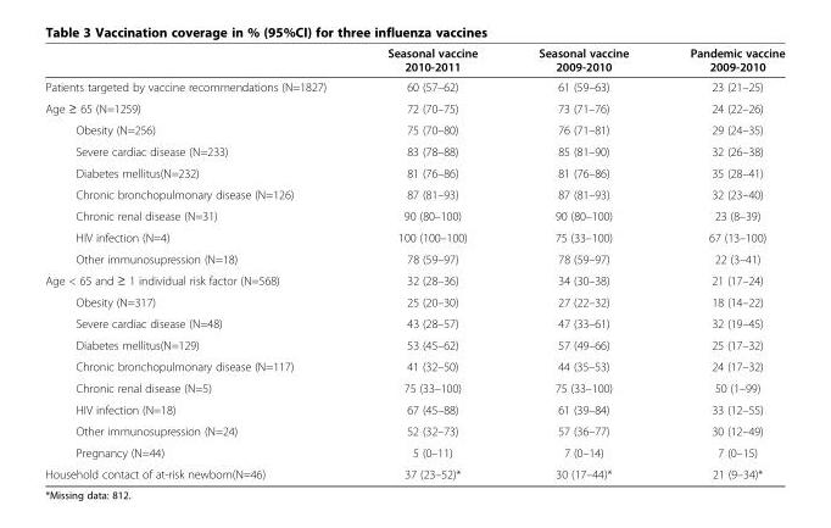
<table><thead><tr><td></td><td>Seasonal vaccine 2010-2011</td><td>Seasonal vaccine 2009-2010</td><td>Pandemic vaccine 2009-2010</td></tr></thead><tbody><tr><td>Patients targeted by vaccine recommendations (N=1827)</td><td>60 (57–62)</td><td>61 (59–63)</td><td>23 (21–25)</td></tr><tr><td>Age ≥ 65 (N=1259)</td><td>72 (70–75)</td><td>73 (71–76)</td><td>24 (22–26)</td></tr><tr><td>Obesity (N=256)</td><td>75 (70–80)</td><td>76 (71–81)</td><td>29 (24–35)</td></tr><tr><td>Severe cardiac disease (N=233)</td><td>83 (78–88)</td><td>85 (81–90)</td><td>32 (26–38)</td></tr><tr><td>Diabetes mellitus(N=232)</td><td>81 (76–86)</td><td>81 (76–86)</td><td>35 (28–41)</td></tr><tr><td>Chronic bronchopulmonary disease (N=126)</td><td>87 (81–93)</td><td>87 (81–93)</td><td>32 (23–40)</td></tr><tr><td>Chronic renal disease (N=31)</td><td>90 (80–100)</td><td>90 (80–100)</td><td>23 (8–39)</td></tr><tr><td>HIV infection (N=4)</td><td>100 (100–100)</td><td>75 (33–100)</td><td>67 (13–100)</td></tr><tr><td>Other immunosupression (N=18)</td><td>78 (59–97)</td><td>78 (59–97)</td><td>22 (3–41)</td></tr><tr><td>Age &lt; 65 and ≥ 1 individual risk factor (N=568)</td><td>32 (28–36)</td><td>34 (30–38)</td><td>21 (17–24)</td></tr><tr><td>Obesity (N=317)</td><td>25 (20–30)</td><td>27 (22–32)</td><td>18 (14–22)</td></tr><tr><td>Severe cardiac disease (N=48)</td><td>43 (28–57)</td><td>47 (33–61)</td><td>32 (19–45)</td></tr><tr><td>Diabetes mellitus(N=129)</td><td>53 (45–62)</td><td>57 (49–66)</td><td>25 (17–32)</td></tr><tr><td>Chronic bronchopulmonary disease (N=117)</td><td>41 (32–50)</td><td>44 (35–53)</td><td>24 (17–32)</td></tr><tr><td>Chronic renal disease (N=5)</td><td>75 (33–100)</td><td>75 (33–100)</td><td>50 (1–99)</td></tr><tr><td>HIV infection (N=18)</td><td>67 (45–88)</td><td>61 (39–84)</td><td>33 (12–55)</td></tr><tr><td>Other immunosupression (N=24)</td><td>52 (32–73)</td><td>57 (36–77)</td><td>30 (12–49)</td></tr><tr><td>Pregnancy (N=44)</td><td>5 (0–11)</td><td>7 (0–14)</td><td>7 (0–15)</td></tr><tr><td>Household contact of at-risk newborn(N=46)</td><td>37 (23–52)*</td><td>30 (17–44)*</td><td>21 (9–34)*</td></tr></tbody></table>